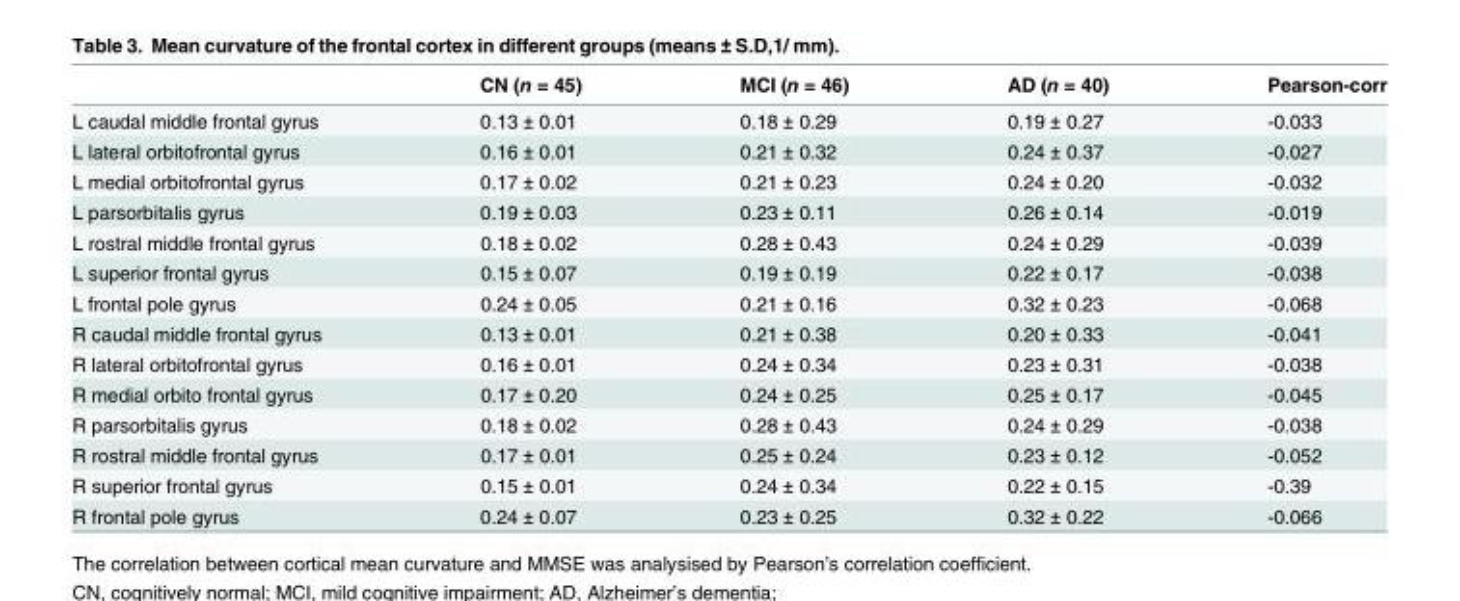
<table><thead><tr><td></td><td>CN (n = 45)</td><td>MCI (n = 46)</td><td>AD (n = 40)</td><td>Pearson-corr</td></tr></thead><tbody><tr><td>L caudal middle frontal gyrus</td><td>0.13 ± 0.01</td><td>0.18 ± 0.29</td><td>0.19 ± 0.27</td><td>-0.033</td></tr><tr><td>L lateral orbitofrontal gyrus</td><td>0.16 ± 0.01</td><td>0.21 ± 0.32</td><td>0.24 ± 0.37</td><td>-0.027</td></tr><tr><td>L medial orbitofrontal gyrus</td><td>0.17 ± 0.02</td><td>0.21 ± 0.23</td><td>0.24 ± 0.20</td><td>-0.032</td></tr><tr><td>L parsorbitalis gyrus</td><td>0.19 ± 0.03</td><td>0.23 ± 0.11</td><td>0.26 ± 0.14</td><td>-0.019</td></tr><tr><td>L rostral middle frontal gyrus</td><td>0.18 ± 0.02</td><td>0.28 ± 0.43</td><td>0.24 ± 0.29</td><td>-0.039</td></tr><tr><td>L superior frontal gyrus</td><td>0.15 ± 0.07</td><td>0.19 ± 0.19</td><td>0.22 ± 0.17</td><td>-0.038</td></tr><tr><td>L frontal pole gyrus</td><td>0.24 ± 0.05</td><td>0.21 ± 0.16</td><td>0.32 ± 0.23</td><td>-0.068</td></tr><tr><td>R caudal middle frontal gyrus</td><td>0.13 ± 0.01</td><td>0.21 ± 0.38</td><td>0.20 ± 0.33</td><td>-0.041</td></tr><tr><td>R lateral orbitofrontal gyrus</td><td>0.16 ± 0.01</td><td>0.24 ± 0.34</td><td>0.23 ± 0.31</td><td>-0.038</td></tr><tr><td>R medial orbito frontal gyrus</td><td>0.17 ± 0.20</td><td>0.24 ± 0.25</td><td>0.25 ± 0.17</td><td>-0.045</td></tr><tr><td>R parsorbitalis gyrus</td><td>0.18 ± 0.02</td><td>0.28 ± 0.43</td><td>0.24 ± 0.29</td><td>-0.038</td></tr><tr><td>R rostral middle frontal gyrus</td><td>0.17 ± 0.01</td><td>0.25 ± 0.24</td><td>0.23 ± 0.12</td><td>-0.052</td></tr><tr><td>R superior frontal gyrus</td><td>0.15 ± 0.01</td><td>0.24 ± 0.34</td><td>0.22 ± 0.15</td><td>-0.39</td></tr><tr><td>R frontal pole gyrus</td><td>0.24 ± 0.07</td><td>0.23 ± 0.25</td><td>0.32 ± 0.22</td><td>-0.066</td></tr></tbody></table>